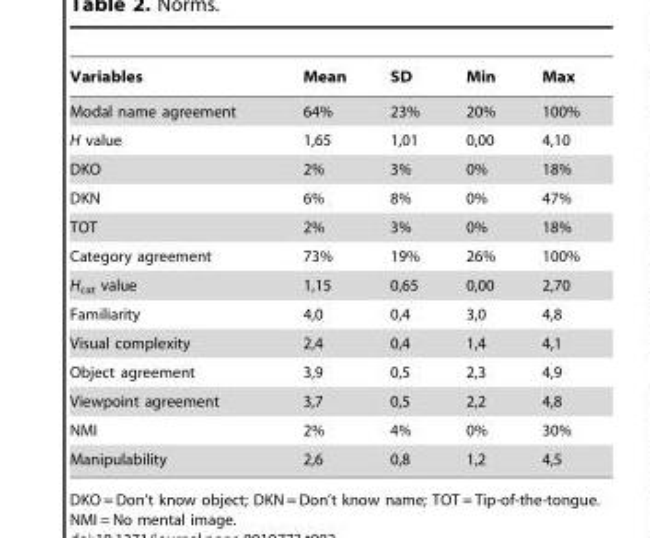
<table><thead><tr><td>Variables</td><td>Mean</td><td>SD</td><td>Min</td><td>Max</td></tr></thead><tbody><tr><td>Modal name agreement</td><td>64%</td><td>23%</td><td>20%</td><td>100%</td></tr><tr><td>H value</td><td>1,65</td><td>1,01</td><td>0,00</td><td>4,10</td></tr><tr><td>DKO</td><td>2%</td><td>3%</td><td>0%</td><td>18%</td></tr><tr><td>DKN</td><td>6%</td><td>8%</td><td>0%</td><td>47%</td></tr><tr><td>TOT</td><td>2%</td><td>3%</td><td>0%</td><td>18%</td></tr><tr><td>Category agreement</td><td>73%</td><td>19%</td><td>26%</td><td>100%</td></tr><tr><td>H<sub>cat</sub> value</td><td>1,15</td><td>0,65</td><td>0,00</td><td>2,70</td></tr><tr><td>Familiarity</td><td>4,0</td><td>0,4</td><td>3,0</td><td>4,8</td></tr><tr><td>Visual complexity</td><td>2,4</td><td>0,4</td><td>1,4</td><td>4,1</td></tr><tr><td>Object agreement</td><td>3,9</td><td>0,5</td><td>2,3</td><td>4,9</td></tr><tr><td>Viewpoint agreement</td><td>3,7</td><td>0,5</td><td>2,2</td><td>4,8</td></tr><tr><td>NMI</td><td>2%</td><td>4%</td><td>0%</td><td>30%</td></tr><tr><td>Manipulability</td><td>2,6</td><td>0,8</td><td>1,2</td><td>4,5</td></tr></tbody></table>